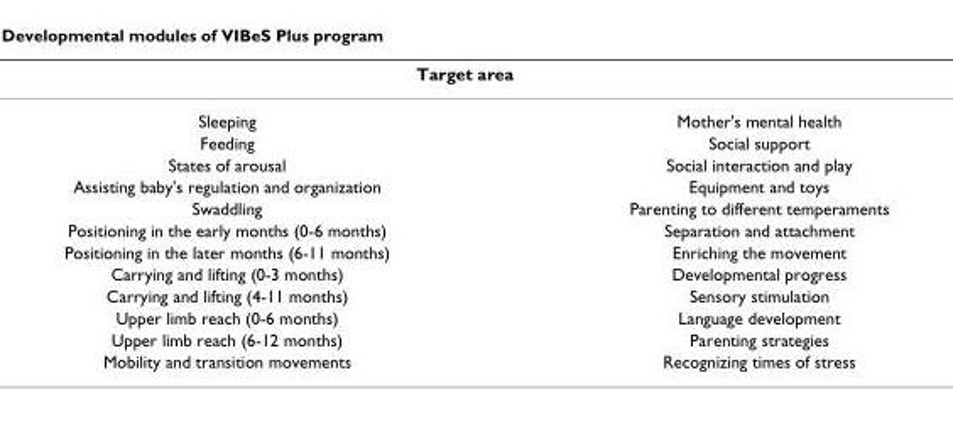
<table><thead><tr><td colspan="2">Target area</td></tr><tr><td>Sleeping</td><td>Mother&#x27;s mental health</td></tr></thead><tbody><tr><td>Feeding</td><td>Social support</td></tr><tr><td>States of arousal</td><td>Social interaction and play</td></tr><tr><td>Assisting baby&#x27;s regulation and organization</td><td>Equipment and toys</td></tr><tr><td>Swaddling</td><td>Parenting to different temperaments</td></tr><tr><td>Positioning in the early months (0-6 months)</td><td>Separation and attachment</td></tr><tr><td>Positioning in the later months (6-11 months)</td><td>Enriching the movement</td></tr><tr><td>Carrying and lifting (0-3 months)</td><td>Developmental progress</td></tr><tr><td>Carrying and lifting (4-11 months)</td><td>Sensory stimulation</td></tr><tr><td>Upper limb reach (0-6 months)</td><td>Language development</td></tr><tr><td>Upper limb reach (6-12 months)</td><td>Parenting strategies</td></tr><tr><td>Mobility and transition movements</td><td>Recognizing times of stress</td></tr></tbody></table>